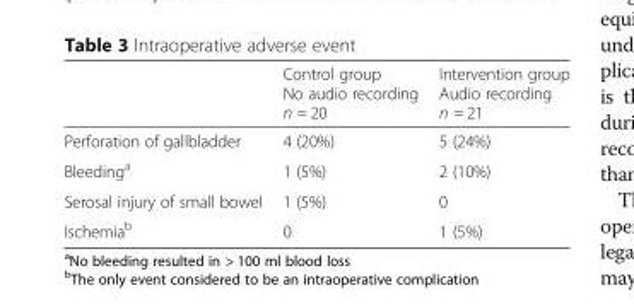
<table><thead><tr><td></td><td>Control group No audio recording n = 20</td><td>Intervention group Audio recording n = 21</td></tr></thead><tbody><tr><td>Perforation of gallbladder</td><td>4 (20%)</td><td>5 (24%)</td></tr><tr><td>Bleeding<sup>a</sup></td><td>1 (5%)</td><td>2 (10%)</td></tr><tr><td>Serosal injury of small bowel</td><td>1 (5%)</td><td>0</td></tr><tr><td>Ischemia<sup>b</sup></td><td>0</td><td>1 (5%)</td></tr></tbody></table>